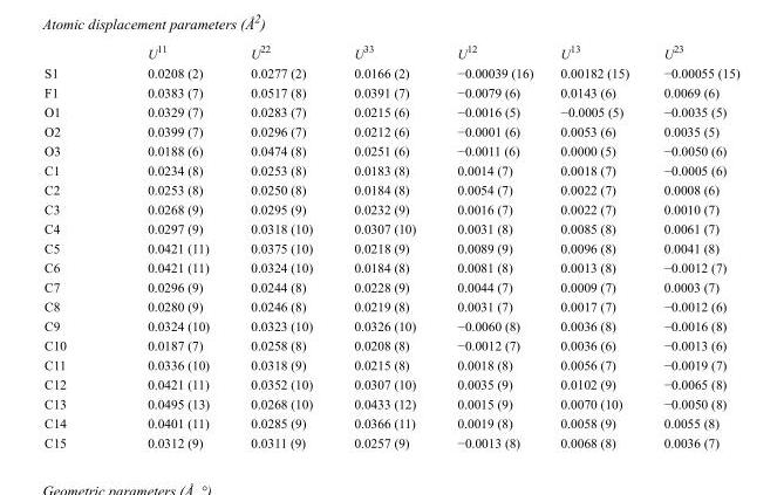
<table><thead><tr><td></td><td>U<sup>11</sup></td><td>U<sup>22</sup></td><td>U<sup>33</sup></td><td>U<sup>12</sup></td><td>U<sup>13</sup></td><td>U<sup>23</sup></td></tr></thead><tbody><tr><td>S1</td><td>0.0208 (2)</td><td>0.0277 (2)</td><td>0.0166 (2)</td><td>−0.00039 (16)</td><td>0.00182 (15)</td><td>−0.00055 (15)</td></tr><tr><td>F1</td><td>0.0383 (7)</td><td>0.0517 (8)</td><td>0.0391 (7)</td><td>−0.0079 (6)</td><td>0.0143 (6)</td><td>0.0069 (6)</td></tr><tr><td>O1</td><td>0.0329 (7)</td><td>0.0283 (7)</td><td>0.0215 (6)</td><td>−0.0016 (5)</td><td>−0.0005 (5)</td><td>−0.0035 (5)</td></tr><tr><td>O2</td><td>0.0399 (7)</td><td>0.0296 (7)</td><td>0.0212 (6)</td><td>−0.0001 (6)</td><td>0.0053 (6)</td><td>0.0035 (5)</td></tr><tr><td>O3</td><td>0.0188 (6)</td><td>0.0474 (8)</td><td>0.0251 (6)</td><td>−0.0011 (6)</td><td>0.0000 (5)</td><td>−0.0050 (6)</td></tr><tr><td>C1</td><td>0.0234 (8)</td><td>0.0253 (8)</td><td>0.0183 (8)</td><td>0.0014 (7)</td><td>0.0018 (7)</td><td>−0.0005 (6)</td></tr><tr><td>C2</td><td>0.0253 (8)</td><td>0.0250 (8)</td><td>0.0184 (8)</td><td>0.0054 (7)</td><td>0.0022 (7)</td><td>0.0008 (6)</td></tr><tr><td>C3</td><td>0.0268 (9)</td><td>0.0295 (9)</td><td>0.0232 (9)</td><td>0.0016 (7)</td><td>0.0022 (7)</td><td>0.0010 (7)</td></tr><tr><td>C4</td><td>0.0297 (9)</td><td>0.0318 (10)</td><td>0.0307 (10)</td><td>0.0031 (8)</td><td>0.0085 (8)</td><td>0.0061 (7)</td></tr><tr><td>C5</td><td>0.0421 (11)</td><td>0.0375 (10)</td><td>0.0218 (9)</td><td>0.0089 (9)</td><td>0.0096 (8)</td><td>0.0041 (8)</td></tr><tr><td>C6</td><td>0.0421 (11)</td><td>0.0324 (10)</td><td>0.0184 (8)</td><td>0.0081 (8)</td><td>0.0013 (8)</td><td>−0.0012 (7)</td></tr><tr><td>C7</td><td>0.0296 (9)</td><td>0.0244 (8)</td><td>0.0228 (9)</td><td>0.0044 (7)</td><td>0.0009 (7)</td><td>0.0003 (7)</td></tr><tr><td>C8</td><td>0.0280 (9)</td><td>0.0246 (8)</td><td>0.0219 (8)</td><td>0.0031 (7)</td><td>0.0017 (7)</td><td>−0.0012 (6)</td></tr><tr><td>C9</td><td>0.0324 (10)</td><td>0.0323 (10)</td><td>0.0326 (10)</td><td>−0.0060 (8)</td><td>0.0036 (8)</td><td>−0.0016 (8)</td></tr><tr><td>C10</td><td>0.0187 (7)</td><td>0.0258 (8)</td><td>0.0208 (8)</td><td>−0.0012 (7)</td><td>0.0036 (6)</td><td>−0.0013 (6)</td></tr><tr><td>C11</td><td>0.0336 (10)</td><td>0.0318 (9)</td><td>0.0215 (8)</td><td>0.0018 (8)</td><td>0.0056 (7)</td><td>−0.0019 (7)</td></tr><tr><td>C12</td><td>0.0421 (11)</td><td>0.0352 (10)</td><td>0.0307 (10)</td><td>0.0035 (9)</td><td>0.0102 (9)</td><td>−0.0065 (8)</td></tr><tr><td>C13</td><td>0.0495 (13)</td><td>0.0268 (10)</td><td>0.0433 (12)</td><td>0.0015 (9)</td><td>0.0070 (10)</td><td>−0.0050 (8)</td></tr><tr><td>C14</td><td>0.0401 (11)</td><td>0.0285 (9)</td><td>0.0366 (11)</td><td>0.0019 (8)</td><td>0.0058 (9)</td><td>0.0055 (8)</td></tr><tr><td>C15</td><td>0.0312 (9)</td><td>0.0311 (9)</td><td>0.0257 (9)</td><td>−0.0013 (8)</td><td>0.0068 (8)</td><td>0.0036 (7)</td></tr></tbody></table>